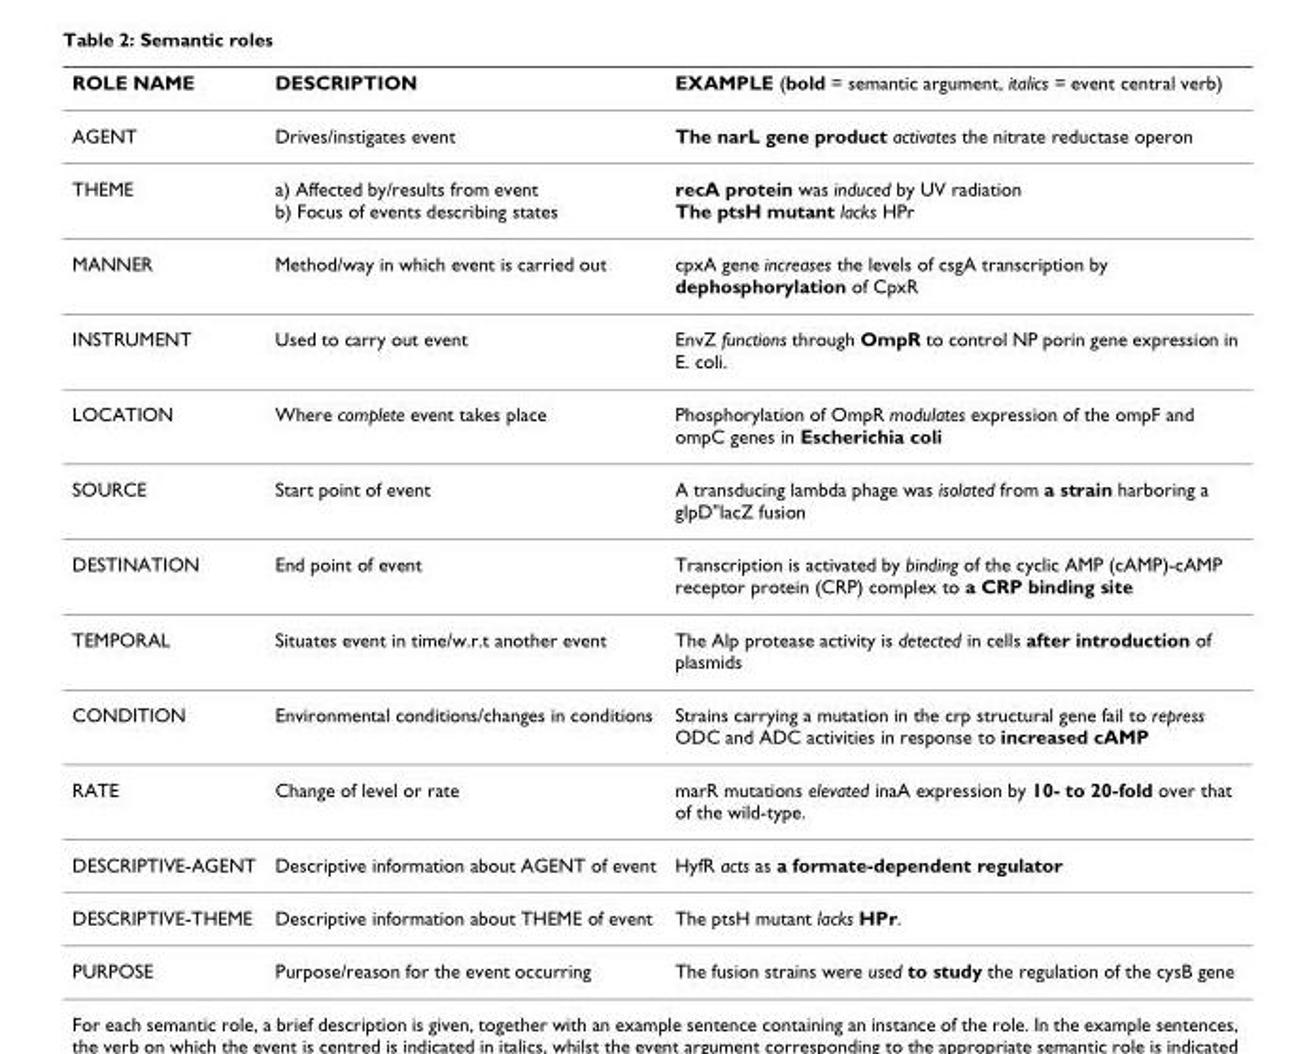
<table><thead><tr><td>ROLE NAME</td><td>DESCRIPTION</td><td>EXAMPLE (bold = semantic argument, italics = event central verb)</td></tr></thead><tbody><tr><td>AGENT</td><td>Drives/instigates event</td><td>The narL gene product activates the nitrate reductase operon</td></tr><tr><td>THEME</td><td>a) Affected by/results from event b) Focus of events describing states</td><td>recA protein was induced by UV radiation The ptsH mutant lacks HPr</td></tr><tr><td>MANNER</td><td>Method/way in which event is carried out</td><td>cpxA gene increases the levels of csgA transcription by dephosphorylation of CpxR</td></tr><tr><td>INSTRUMENT</td><td>Used to carry out event</td><td>EnvZ functions through OmpR to control NP porin gene expression in E. coli.</td></tr><tr><td>LOCATION</td><td>Where complete event takes place</td><td>Phosphorylation of OmpR modulates expression of the ompF and ompC genes in Escherichia coli</td></tr><tr><td>SOURCE</td><td>Start point of event</td><td>A transducing lambda phage was isolated from a strain harboring a glpD&quot;lacZ fusion</td></tr><tr><td>DESTINATION</td><td>End point of event</td><td>Transcription is activated by binding of the cyclic AMP (cAMP)-cAMP receptor protein (CRP) complex to a CRP binding site</td></tr><tr><td>TEMPORAL</td><td>Situates event in time/w.r.t another event</td><td>The Alp protease activity is detected in cells after introduction of plasmids</td></tr><tr><td>CONDITION</td><td>Environmental conditions/changes in conditions</td><td>Strains carrying a mutation in the crp structural gene fail to repress ODC and ADC activities in response to increased cAMP</td></tr><tr><td>RATE</td><td>Change of level or rate</td><td>marR mutations elevated inaA expression by 10- to 20-fold over that of the wild-type.</td></tr><tr><td>DESCRIPTIVE-AGENT</td><td>Descriptive information about AGENT of event</td><td>HyfR acts as a formate-dependent regulator</td></tr><tr><td>DESCRIPTIVE-THEME</td><td>Descriptive information about THEME of event</td><td>The ptsH mutant lacks HPr.</td></tr><tr><td>PURPOSE</td><td>Purpose/reason for the event occurring</td><td>The fusion strains were used to study the regulation of the cysB gene</td></tr></tbody></table>